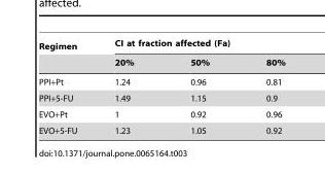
<table><thead><tr><td rowspan="2">Regimen</td><td colspan="3">CI at fraction affected (Fa)</td></tr><tr><td>20%</td><td>50%</td><td>80%</td></tr></thead><tbody><tr><td>PPI+Pt</td><td>1.24</td><td>0.96</td><td>0.81</td></tr><tr><td>PPI+5-FU</td><td>1.49</td><td>1.15</td><td>0.9</td></tr><tr><td>EVO+Pt</td><td>1</td><td>0.92</td><td>0.96</td></tr><tr><td>EVO+5-FU</td><td>1.23</td><td>1.05</td><td>0.92</td></tr></tbody></table>